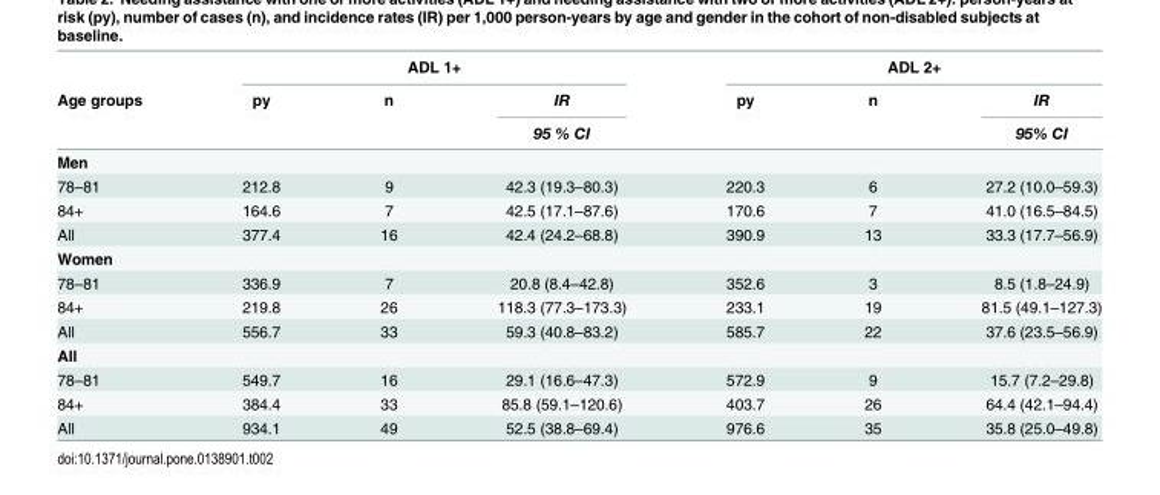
<table><thead><tr><td rowspan="3">Age groups</td><td colspan="3">ADL 1+</td><td colspan="3">ADL 2+</td></tr><tr><td rowspan="2">py</td><td rowspan="2">n</td><td rowspan="2">IR 95 % CI</td><td rowspan="2">py</td><td rowspan="2">n</td><td rowspan="2">IR 95% CI</td></tr><tr></tr></thead><tbody><tr><td colspan="7">Men</td></tr><tr><td>78–81</td><td>212.8</td><td>9</td><td>42.3 (19.3–80.3)</td><td>220.3</td><td>6</td><td>27.2 (10.0–59.3)</td></tr><tr><td>84+</td><td>164.6</td><td>7</td><td>42.5 (17.1–87.6)</td><td>170.6</td><td>7</td><td>41.0 (16.5–84.5)</td></tr><tr><td>All</td><td>377.4</td><td>16</td><td>42.4 (24.2–68.8)</td><td>390.9</td><td>13</td><td>33.3 (17.7–56.9)</td></tr><tr><td colspan="7">Women</td></tr><tr><td>78–81</td><td>336.9</td><td>7</td><td>20.8 (8.4–42.8)</td><td>352.6</td><td>3</td><td>8.5 (1.8–24.9)</td></tr><tr><td>84+</td><td>219.8</td><td>26</td><td>118.3 (77.3–173.3)</td><td>233.1</td><td>19</td><td>81.5 (49.1–127.3)</td></tr><tr><td>All</td><td>556.7</td><td>33</td><td>59.3 (40.8–83.2)</td><td>585.7</td><td>22</td><td>37.6 (23.5–56.9)</td></tr><tr><td colspan="7">All</td></tr><tr><td>78–81</td><td>549.7</td><td>16</td><td>29.1 (16.6–47.3)</td><td>572.9</td><td>9</td><td>15.7 (7.2–29.8)</td></tr><tr><td>84+</td><td>384.4</td><td>33</td><td>85.8 (59.1–120.6)</td><td>403.7</td><td>26</td><td>64.4 (42.1–94.4)</td></tr><tr><td>All</td><td>934.1</td><td>49</td><td>52.5 (38.8–69.4)</td><td>976.6</td><td>35</td><td>35.8 (25.0–49.8)</td></tr></tbody></table>